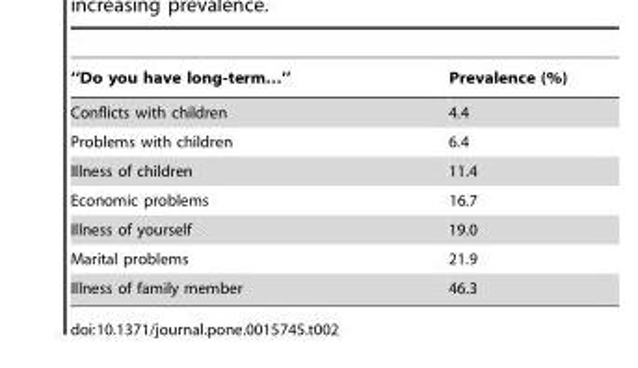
<table><thead><tr><td>‘‘Do you have long-term…’’</td><td>Prevalence (%)</td></tr></thead><tbody><tr><td>Conflicts with children</td><td>4.4</td></tr><tr><td>Problems with children</td><td>6.4</td></tr><tr><td>Illness of children</td><td>11.4</td></tr><tr><td>Economic problems</td><td>16.7</td></tr><tr><td>Illness of yourself</td><td>19.0</td></tr><tr><td>Marital problems</td><td>21.9</td></tr><tr><td>Illness of family member</td><td>46.3</td></tr></tbody></table>